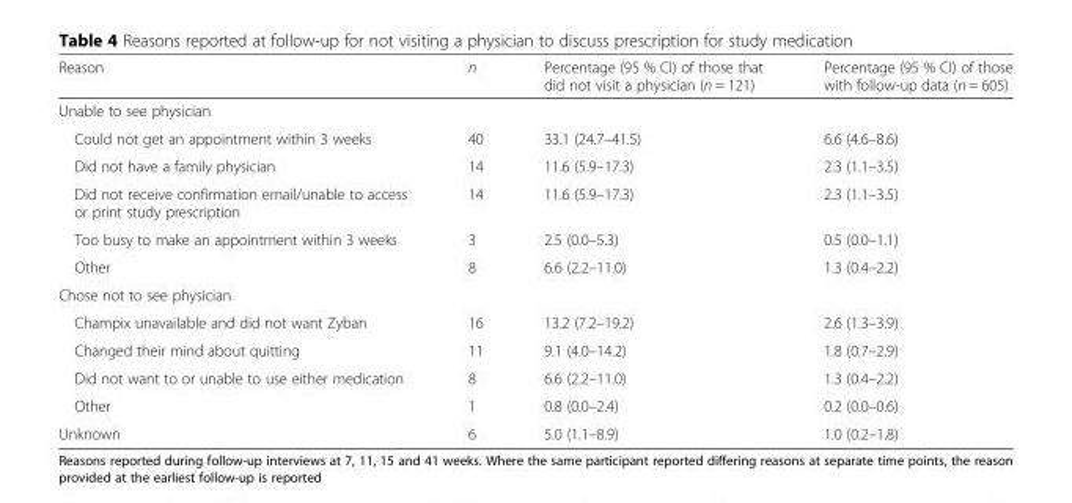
<table><thead><tr><td>Reason</td><td>n</td><td>Percentage (95 % CI) of those that did not visit a physician (n = 121)</td><td>Percentage (95 % CI) of those with follow-up data (n = 605)</td></tr></thead><tbody><tr><td colspan="4">Unable to see physician</td></tr><tr><td>Could not get an appointment within 3 weeks</td><td>40</td><td>33.1 (24.7–41.5)</td><td>6.6 (4.6–8.6)</td></tr><tr><td>Did not have a family physician</td><td>14</td><td>11.6 (5.9–17.3)</td><td>2.3 (1.1–3.5)</td></tr><tr><td>Did not receive confirmation email/unable to access or print study prescription</td><td>14</td><td>11.6 (5.9–17.3)</td><td>2.3 (1.1–3.5)</td></tr><tr><td>Too busy to make an appointment within 3 weeks</td><td>3</td><td>2.5 (0.0–5.3)</td><td>0.5 (0.0–1.1)</td></tr><tr><td>Other</td><td>8</td><td>6.6 (2.2–11.0)</td><td>1.3 (0.4–2.2)</td></tr><tr><td colspan="4">Chose not to see physician</td></tr><tr><td>Champix unavailable and did not want Zyban</td><td>16</td><td>13.2 (7.2–19.2)</td><td>2.6 (1.3–3.9)</td></tr><tr><td>Changed their mind about quitting</td><td>11</td><td>9.1 (4.0–14.2)</td><td>1.8 (0.7–2.9)</td></tr><tr><td>Did not want to or unable to use either medication</td><td>8</td><td>6.6 (2.2–11.0)</td><td>1.3 (0.4–2.2)</td></tr><tr><td>Other</td><td>1</td><td>0.8 (0.0–2.4)</td><td>0.2 (0.0–0.6)</td></tr><tr><td>Unknown</td><td>6</td><td>5.0 (1.1–8.9)</td><td>1.0 (0.2–1.8)</td></tr></tbody></table>